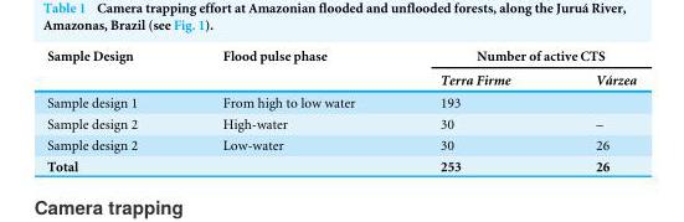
<table><thead><tr><td rowspan="2">Sample Design</td><td rowspan="2">Flood pulse phase</td><td colspan="2">Number of active CTS</td></tr><tr><td>Terra Firme</td><td>Várzea</td></tr></thead><tbody><tr><td>Sample design 1</td><td>From high to low water</td><td>193</td><td></td></tr><tr><td>Sample design 2</td><td>High-water</td><td>30</td><td>–</td></tr><tr><td>Sample design 2</td><td>Low-water</td><td>30</td><td>26</td></tr><tr><td>Total</td><td></td><td>253</td><td>26</td></tr></tbody></table>